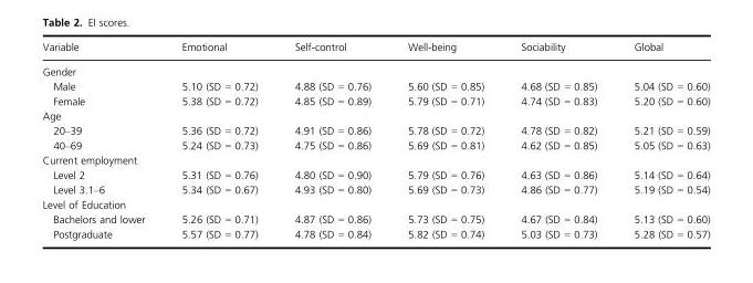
<table><thead><tr><td>Variable</td><td>Emotional</td><td>Self-control</td><td>Well-being</td><td>Sociability</td><td>Global</td></tr></thead><tbody><tr><td colspan="6">Gender</td></tr><tr><td>Male</td><td>5.10 (SD = 0.72)</td><td>4.88 (SD = 0.76)</td><td>5.60 (SD = 0.85)</td><td>4.68 (SD = 0.85)</td><td>5.04 (SD = 0.60)</td></tr><tr><td>Female</td><td>5.38 (SD = 0.72)</td><td>4.85 (SD = 0.89)</td><td>5.79 (SD = 0.71)</td><td>4.74 (SD = 0.83)</td><td>5.20 (SD = 0.60)</td></tr><tr><td colspan="6">Age</td></tr><tr><td>20–39</td><td>5.36 (SD = 0.72)</td><td>4.91 (SD = 0.86)</td><td>5.78 (SD = 0.72)</td><td>4.78 (SD = 0.82)</td><td>5.21 (SD = 0.59)</td></tr><tr><td>40–69</td><td>5.24 (SD = 0.73)</td><td>4.75 (SD = 0.86)</td><td>5.69 (SD = 0.81)</td><td>4.62 (SD = 0.85)</td><td>5.05 (SD = 0.63)</td></tr><tr><td colspan="6">Current employment</td></tr><tr><td>Level 2</td><td>5.31 (SD = 0.76)</td><td>4.80 (SD = 0.90)</td><td>5.79 (SD = 0.76)</td><td>4.63 (SD = 0.86)</td><td>5.14 (SD = 0.64)</td></tr><tr><td>Level 3.1–6</td><td>5.34 (SD = 0.67)</td><td>4.93 (SD = 0.80)</td><td>5.69 (SD = 0.73)</td><td>4.86 (SD = 0.77)</td><td>5.19 (SD = 0.54)</td></tr><tr><td colspan="6">Level of Education</td></tr><tr><td>Bachelors and lower</td><td>5.26 (SD = 0.71)</td><td>4.87 (SD = 0.86)</td><td>5.73 (SD = 0.75)</td><td>4.67 (SD = 0.84)</td><td>5.13 (SD = 0.60)</td></tr><tr><td>Postgraduate</td><td>5.57 (SD = 0.77)</td><td>4.78 (SD = 0.84)</td><td>5.82 (SD = 0.74)</td><td>5.03 (SD = 0.73)</td><td>5.28 (SD = 0.57)</td></tr></tbody></table>